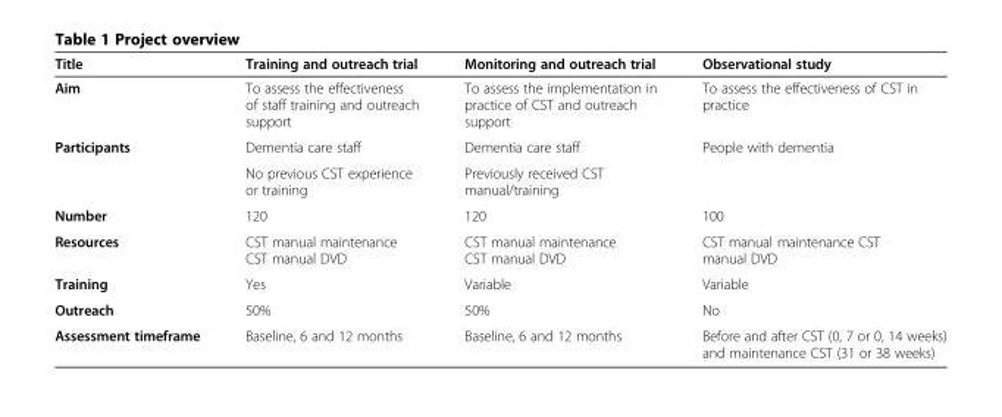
<table><thead><tr><td>Title</td><td>Training and outreach trial</td><td>Monitoring and outreach trial</td><td>Observational study</td></tr></thead><tbody><tr><td>Aim</td><td>To assess the effectiveness of staff training and outreach support</td><td>To assess the implementation in practice of CST and outreach support</td><td>To assess the effectiveness of CST in practice</td></tr><tr><td rowspan="2">Participants</td><td>Dementia care staff</td><td>Dementia care staff</td><td>People with dementia</td></tr><tr><td>No previous CST experience or training</td><td>Previously received CST manual/training</td><td></td></tr><tr><td>Number</td><td>120</td><td>120</td><td>100</td></tr><tr><td>Resources</td><td>CST manual maintenance CST manual DVD</td><td>CST manual maintenance CST manual DVD</td><td>CST manual maintenance CST manual DVD</td></tr><tr><td>Training</td><td>Yes</td><td>Variable</td><td>Variable</td></tr><tr><td>Outreach</td><td>50%</td><td>50%</td><td>No</td></tr><tr><td>Assessment timeframe</td><td>Baseline, 6 and 12 months</td><td>Baseline, 6 and 12 months</td><td>Before and after CST (0, 7 or 0, 14 weeks) and maintenance CST (31 or 38 weeks)</td></tr></tbody></table>